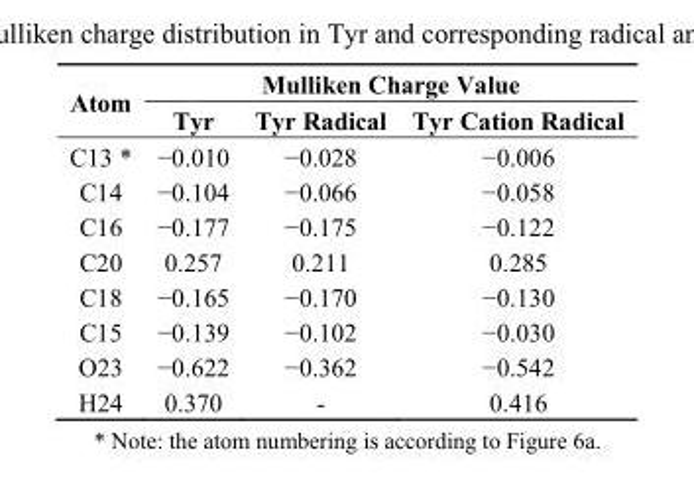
<table><thead><tr><td rowspan="2">Atom</td><td colspan="3">Mulliken Charge Value</td></tr><tr><td>Tyr</td><td>Tyr Radical</td><td>Tyr Cation Radical</td></tr></thead><tbody><tr><td>С13 *</td><td>−0.010</td><td>−0.028</td><td>−0.006</td></tr><tr><td>С14</td><td>−0.104</td><td>−0.066</td><td>−0.058</td></tr><tr><td>С16</td><td>−0.177</td><td>−0.175</td><td>−0.122</td></tr><tr><td>С20</td><td>0.257</td><td>0.211</td><td>0.285</td></tr><tr><td>С18</td><td>−0.165</td><td>−0.170</td><td>−0.130</td></tr><tr><td>С15</td><td>−0.139</td><td>−0.102</td><td>−0.030</td></tr><tr><td>О23</td><td>−0.622</td><td>−0.362</td><td>−0.542</td></tr><tr><td>Н24</td><td>0.370</td><td>-</td><td>0.416</td></tr></tbody></table>